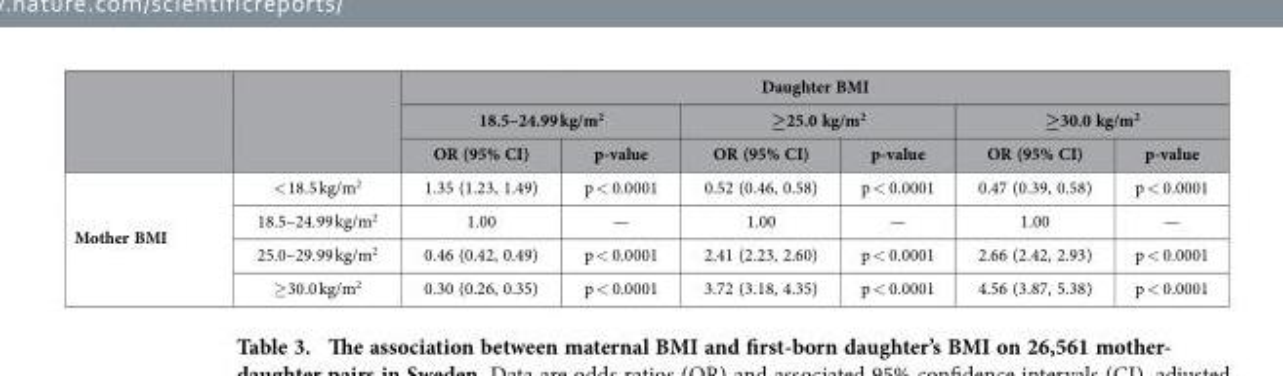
<table><thead><tr><td rowspan="3"></td><td rowspan="3"></td><td colspan="6">Daughter BMI</td></tr><tr><td colspan="2">18.5–24.99 kg/m<sup>2</sup></td><td colspan="2">≥25.0 kg/m<sup>2</sup></td><td colspan="2">≥30.0 kg/m<sup>2</sup></td></tr><tr><td>OR (95% CI)</td><td>p-value</td><td>OR (95% CI)</td><td>p-value</td><td>OR (95% CI)</td><td>p-value</td></tr></thead><tbody><tr><td rowspan="4">Mother BMI</td><td>&lt; 18.5 kg/m<sup>2</sup></td><td>1.35 (1.23, 1.49)</td><td>p &lt; 0.0001</td><td>0.52 (0.46, 0.58)</td><td>p &lt; 0.0001</td><td>0.47 (0.39, 0.58)</td><td>p &lt; 0.0001</td></tr><tr><td>18.5–24.99 kg/m<sup>2</sup></td><td>1.00</td><td>—</td><td>1.00</td><td>—</td><td>1.00</td><td>—</td></tr><tr><td>25.0–29.99 kg/m<sup>2</sup></td><td>0.46 (0.42, 0.49)</td><td>p &lt; 0.0001</td><td>2.41 (2.23, 2.60)</td><td>p &lt; 0.0001</td><td>2.66 (2.42, 2.93)</td><td>p &lt; 0.0001</td></tr><tr><td>≥ 30.0 kg/m<sup>2</sup></td><td>0.30 (0.26, 0.35)</td><td>p &lt; 0.0001</td><td>3.72 (3.18, 4.35)</td><td>p &lt; 0.0001</td><td>4.56 (3.87, 5.38)</td><td>p &lt; 0.0001</td></tr></tbody></table>